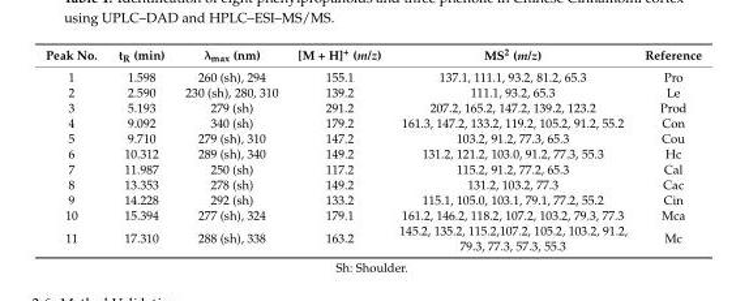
<table><thead><tr><td>Peak No.</td><td>t<sub>R</sub> (min)</td><td>λ<sub>max</sub> (nm)</td><td>[M + H]<sup>+</sup> (m/z)</td><td>MS<sup>2</sup> (m/z)</td><td>Reference</td></tr></thead><tbody><tr><td>1</td><td>1.598</td><td>260 (sh), 294</td><td>155.1</td><td>137.1, 111.1, 93.2, 81.2, 65.3</td><td>Pro</td></tr><tr><td>2</td><td>2.590</td><td>230 (sh), 280, 310</td><td>139.2</td><td>111.1, 93.2, 65.3</td><td>Le</td></tr><tr><td>3</td><td>5.193</td><td>279 (sh)</td><td>291.2</td><td>207.2, 165.2, 147.2, 139.2, 123.2</td><td>Prod</td></tr><tr><td>4</td><td>9.092</td><td>340 (sh)</td><td>179.2</td><td>161.3, 147.2, 133.2, 119.2, 105.2, 91.2, 55.2</td><td>Con</td></tr><tr><td>5</td><td>9.710</td><td>279 (sh), 310</td><td>147.2</td><td>103.2, 91.2, 77.3, 65.3</td><td>Cou</td></tr><tr><td>6</td><td>10.312</td><td>289 (sh), 340</td><td>149.2</td><td>131.2, 121.2, 103.0, 91.2, 77.3, 55.3</td><td>Hc</td></tr><tr><td>7</td><td>11.987</td><td>250 (sh)</td><td>117.2</td><td>115.2, 91.2, 77.2, 65.3</td><td>Cal</td></tr><tr><td>8</td><td>13.353</td><td>278 (sh)</td><td>149.2</td><td>131.2, 103.2, 77.3</td><td>Cac</td></tr><tr><td>9</td><td>14.228</td><td>292 (sh)</td><td>133.2</td><td>115.1, 105.0, 103.1, 79.1, 77.2, 55.2</td><td>Cin</td></tr><tr><td>10</td><td>15.394</td><td>277 (sh), 324</td><td>179.1</td><td>161.2, 146.2, 118.2, 107.2, 103.2, 79.3, 77.3</td><td>Mca</td></tr><tr><td>11</td><td>17.310</td><td>288 (sh), 338</td><td>163.2</td><td>145.2, 135.2, 115.2,107.2, 105.2, 103.2, 91.2, 79.3, 77.3, 57.3, 55.3</td><td>Mc</td></tr></tbody></table>